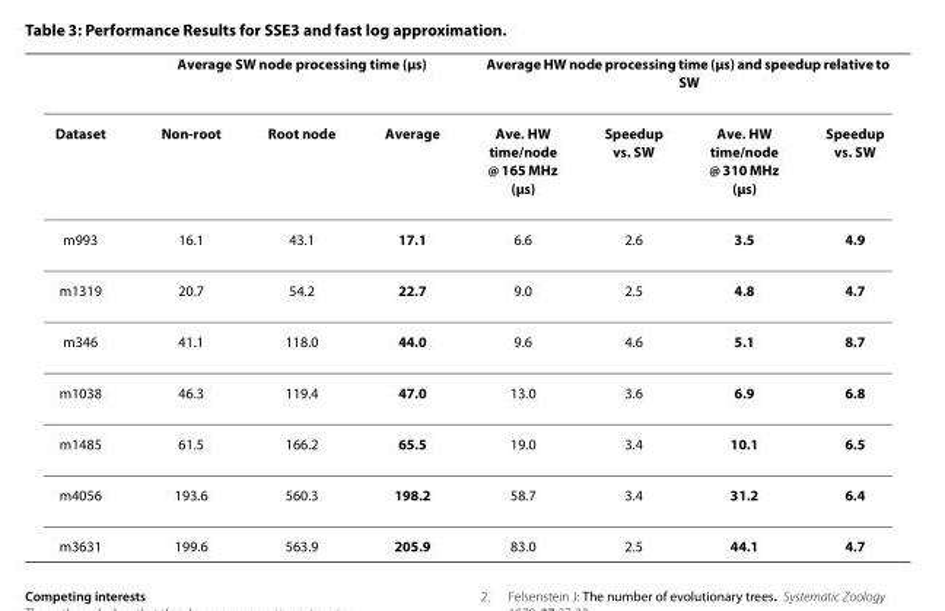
<table><thead><tr><td rowspan="2">Dataset</td><td colspan="3">Average SW node processing time (μs)</td><td colspan="4">Average HW node processing time (μs) and speedup relative to SW</td></tr><tr><td>Non-root</td><td>Root node</td><td>Average</td><td>Ave. HW time/node @ 165 MHz (μs)</td><td>Speedup vs. SW</td><td>Ave. HW time/node @ 310 MHz (μs)</td><td>Speedup vs. SW</td></tr></thead><tbody><tr><td>m993</td><td>16.1</td><td>43.1</td><td>17.1</td><td>6.6</td><td>2.6</td><td>3.5</td><td>4.9</td></tr><tr><td>m1319</td><td>20.7</td><td>54.2</td><td>22.7</td><td>9.0</td><td>2.5</td><td>4.8</td><td>4.7</td></tr><tr><td>m346</td><td>41.1</td><td>118.0</td><td>44.0</td><td>9.6</td><td>4.6</td><td>5.1</td><td>8.7</td></tr><tr><td>m1038</td><td>46.3</td><td>119.4</td><td>47.0</td><td>13.0</td><td>3.6</td><td>6.9</td><td>6.8</td></tr><tr><td>m1485</td><td>61.5</td><td>166.2</td><td>65.5</td><td>19.0</td><td>3.4</td><td>10.1</td><td>6.5</td></tr><tr><td>m4056</td><td>193.6</td><td>560.3</td><td>198.2</td><td>58.7</td><td>3.4</td><td>31.2</td><td>6.4</td></tr><tr><td>m3631</td><td>199.6</td><td>563.9</td><td>205.9</td><td>83.0</td><td>2.5</td><td>44.1</td><td>4.7</td></tr></tbody></table>